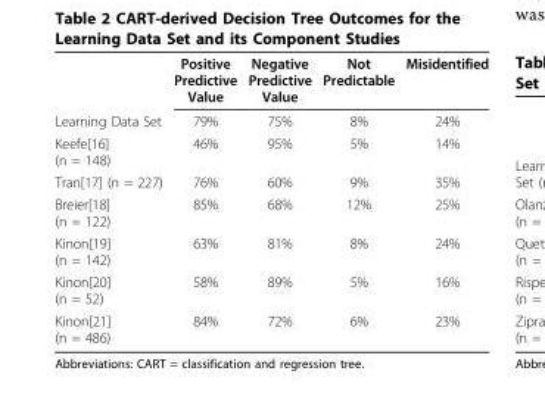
<table><thead><tr><td></td><td>Positive Predictive Value</td><td>Negative Predictive Value</td><td>Not Predictable</td><td>Misidentified</td></tr></thead><tbody><tr><td>Learning Data Set</td><td>79%</td><td>75%</td><td>8%</td><td>24%</td></tr><tr><td>Keefe[16] (n = 148)</td><td>46%</td><td>95%</td><td>5%</td><td>14%</td></tr><tr><td>Tran[17] (n = 227)</td><td>76%</td><td>60%</td><td>9%</td><td>35%</td></tr><tr><td>Breier[18] (n = 122)</td><td>85%</td><td>68%</td><td>12%</td><td>25%</td></tr><tr><td>Kinon[19] (n = 142)</td><td>63%</td><td>81%</td><td>8%</td><td>24%</td></tr><tr><td>Kinon[20] (n = 52)</td><td>58%</td><td>89%</td><td>5%</td><td>16%</td></tr><tr><td>Kinon[21] (n = 486)</td><td>84%</td><td>72%</td><td>6%</td><td>23%</td></tr></tbody></table>